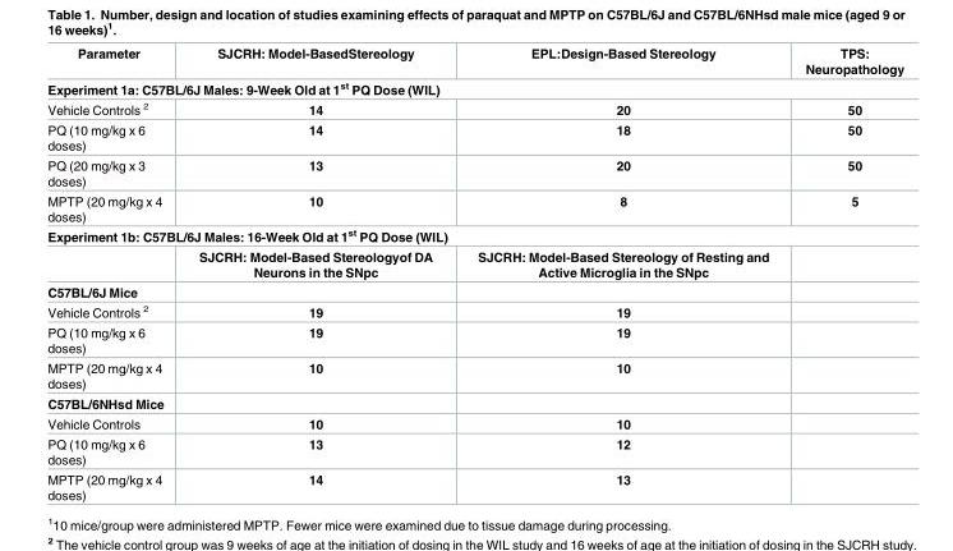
<table><thead><tr><td>Parameter</td><td>SJCRH: Model-BasedStereology</td><td>EPL:Design-Based Stereology</td><td>TPS: Neuropathology</td></tr></thead><tbody><tr><td colspan="4">Experiment 1a: C57BL/6J Males: 9-Week Old at 1<sup>st</sup> PQ Dose (WIL)</td></tr><tr><td>Vehicle Controls <sup>2</sup></td><td>14</td><td>20</td><td>50</td></tr><tr><td>PQ (10 mg/kg x 6 doses)</td><td>14</td><td>18</td><td>50</td></tr><tr><td>PQ (20 mg/kg x 3 doses)</td><td>13</td><td>20</td><td>50</td></tr><tr><td>MPTP (20 mg/kg x 4 doses)</td><td>10</td><td>8</td><td>5</td></tr><tr><td colspan="4">Experiment 1b: C57BL/6J Males: 16-Week Old at 1<sup>st</sup> PQ Dose (WIL)</td></tr><tr><td></td><td>SJCRH: Model-Based Stereologyof DA Neurons in the SNpc</td><td>SJCRH: Model-Based Stereology of Resting and Active Microglia in the SNpc</td><td></td></tr><tr><td colspan="4">C57BL/6J Mice</td></tr><tr><td>Vehicle Controls <sup>2</sup></td><td>19</td><td>19</td><td></td></tr><tr><td>PQ (10 mg/kg x 6 doses)</td><td>19</td><td>19</td><td></td></tr><tr><td>MPTP (20 mg/kg x 4 doses)</td><td>10</td><td>10</td><td></td></tr><tr><td colspan="4">C57BL/6NHsd Mice</td></tr><tr><td>Vehicle Controls</td><td>10</td><td>10</td><td></td></tr><tr><td>PQ (10 mg/kg x 6 doses)</td><td>13</td><td>12</td><td></td></tr><tr><td>MPTP (20 mg/kg x 4 doses)</td><td>14</td><td>13</td><td></td></tr></tbody></table>